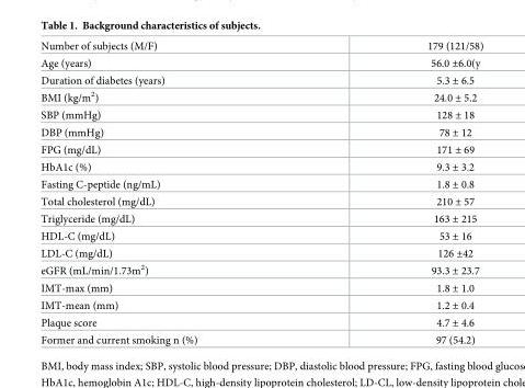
<table><tbody><tr><td>Number of subjects (M/F)</td><td>179 (121/58)</td></tr><tr><td>Age (years)</td><td>56.0 ±6.0(y</td></tr><tr><td>Duration of diabetes (years)</td><td>5.3 ± 6.5</td></tr><tr><td>BMI (kg/m<sup>2</sup>)</td><td>24.0 ± 5.2</td></tr><tr><td>SBP (mmHg)</td><td>128 ± 18</td></tr><tr><td>DBP (mmHg)</td><td>78 ± 12</td></tr><tr><td>FPG (mg/dL)</td><td>171 ± 69</td></tr><tr><td>HbA1c (%)</td><td>9.3 ± 3.2</td></tr><tr><td>Fasting C-peptide (ng/mL)</td><td>1.8 ± 0.8</td></tr><tr><td>Total cholesterol (mg/dL)</td><td>210 ± 57</td></tr><tr><td>Triglyceride (mg/dL)</td><td>163 ± 215</td></tr><tr><td>HDL-C (mg/dL)</td><td>53 ± 16</td></tr><tr><td>LDL-C (mg/dL)</td><td>126 ±42</td></tr><tr><td>eGFR (mL/min/1.73m<sup>2</sup>)</td><td>93.3 ± 23.7</td></tr><tr><td>IMT-max (mm)</td><td>1.8 ± 1.0</td></tr><tr><td>IMT-mean (mm)</td><td>1.2 ± 0.4</td></tr><tr><td>Plaque score</td><td>4.7 ± 4.6</td></tr><tr><td>Former and current smoking n (%)</td><td>97 (54.2)</td></tr></tbody></table>